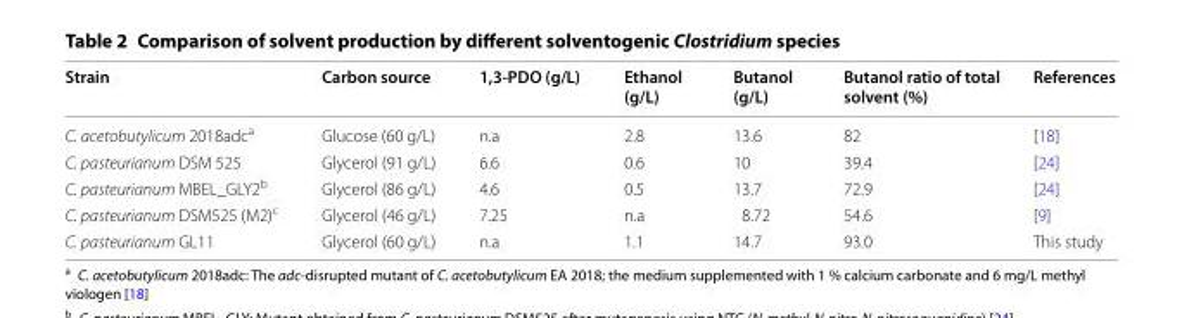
<table><thead><tr><td>Strain</td><td>Carbon source</td><td>1,3-PDO (g/L)</td><td>Ethanol (g/L)</td><td>Butanol (g/L)</td><td>Butanol ratio of total solvent (%)</td><td>References</td></tr></thead><tbody><tr><td>C. acetobutylicum 2018adc<sup>a</sup></td><td>Glucose (60 g/L)</td><td>n.a</td><td>2.8</td><td>13.6</td><td>82</td><td>[18]</td></tr><tr><td>C. pasteurianum DSM 525</td><td>Glycerol (91 g/L)</td><td>6.6</td><td>0.6</td><td>10</td><td>39.4</td><td>[24]</td></tr><tr><td>C. pasteurianum MBEL_GLY2<sup>b</sup></td><td>Glycerol (86 g/L)</td><td>4.6</td><td>0.5</td><td>13.7</td><td>72.9</td><td>[24]</td></tr><tr><td>C. pasteurianum DSM525 (M2)<sup>c</sup></td><td>Glycerol (46 g/L)</td><td>7.25</td><td>n.a</td><td>8.72</td><td>54.6</td><td>[9]</td></tr><tr><td>C. pasteurianum GL11</td><td>Glycerol (60 g/L)</td><td>n.a</td><td>1.1</td><td>14.7</td><td>93.0</td><td>This study</td></tr></tbody></table>